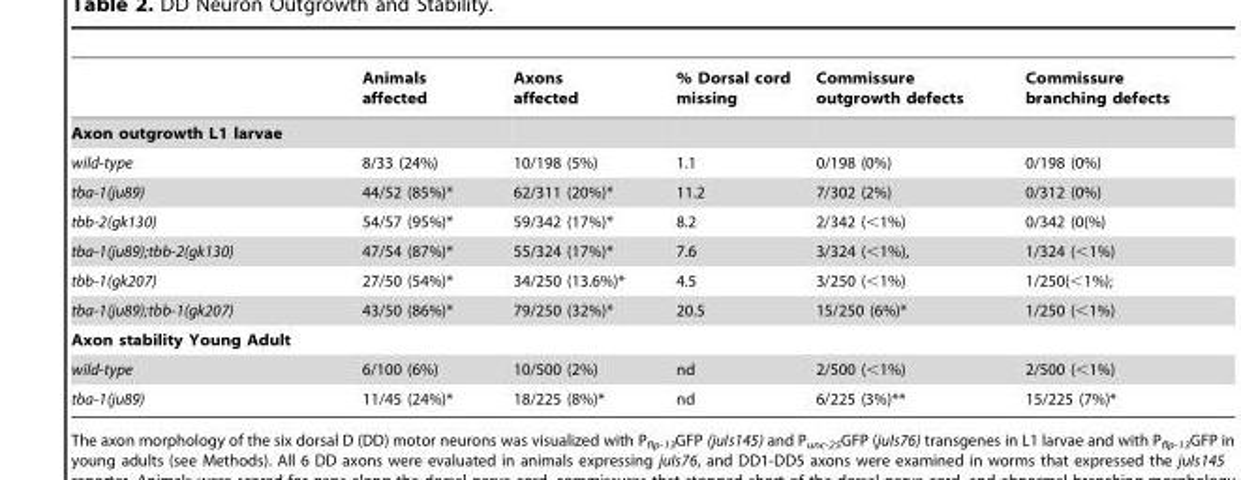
<table><thead><tr><td></td><td>Animals affected</td><td>Axons affected</td><td>% Dorsal cord missing</td><td>Commissure outgrowth defects</td><td>Commissure branching defects</td></tr></thead><tbody><tr><td colspan="6">Axon outgrowth L1 larvae</td></tr><tr><td>wild-type</td><td>8/33 (24%)</td><td>10/198 (5%)</td><td>1.1</td><td>0/198 (0%)</td><td>0/198 (0%)</td></tr><tr><td>tba-1(ju89)</td><td>44/52 (85%)*</td><td>62/311 (20%)*</td><td>11.2</td><td>7/302 (2%)</td><td>0/312 (0%)</td></tr><tr><td>tbb-2(gk130)</td><td>54/57 (95%)*</td><td>59/342 (17%)*</td><td>8.2</td><td>2/342 (&lt;1%)</td><td>0/342 (0(%)</td></tr><tr><td>tba-1(ju89);tbb-2(gk130)</td><td>47/54 (87%)*</td><td>55/324 (17%)*</td><td>7.6</td><td>3/324 (&lt;1%),</td><td>1/324 (&lt;1%)</td></tr><tr><td>tbb-1(gk207)</td><td>27/50 (54%)*</td><td>34/250 (13.6%)*</td><td>4.5</td><td>3/250 (&lt;1%)</td><td>1/250(&lt;1%);</td></tr><tr><td>tba-1(ju89);tbb-1(gk207)</td><td>43/50 (86%)*</td><td>79/250 (32%)*</td><td>20.5</td><td>15/250 (6%)*</td><td>1/250 (&lt;1%)</td></tr><tr><td colspan="6">Axon stability Young Adult</td></tr><tr><td>wild-type</td><td>6/100 (6%)</td><td>10/500 (2%)</td><td>nd</td><td>2/500 (&lt;1%)</td><td>2/500 (&lt;1%)</td></tr><tr><td>tba-1(ju89)</td><td>11/45 (24%)*</td><td>18/225 (8%)*</td><td>nd</td><td>6/225 (3%)**</td><td>15/225 (7%)*</td></tr></tbody></table>